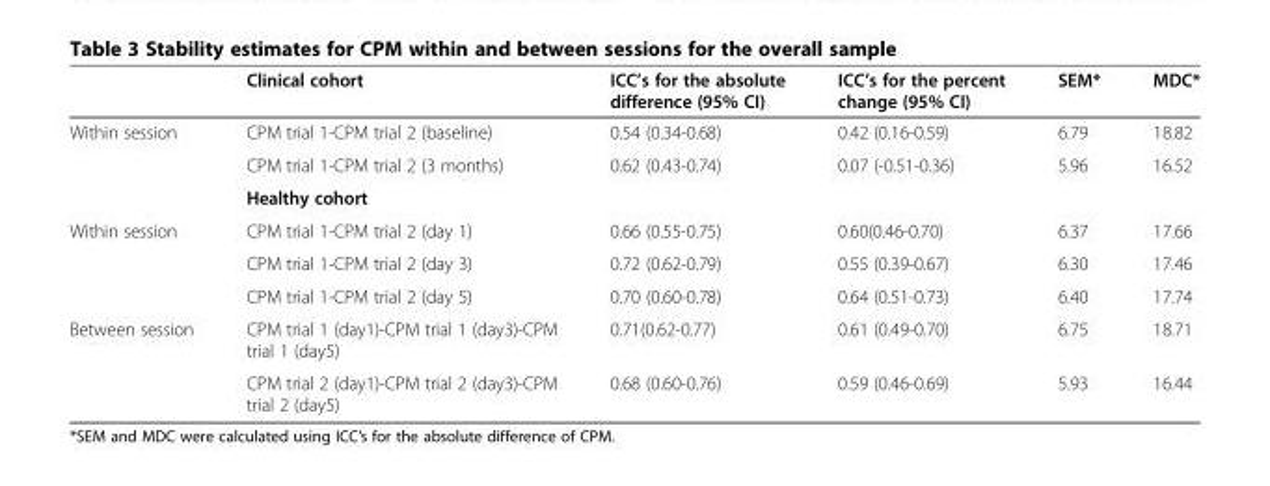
<table><thead><tr><td></td><td>Clinical cohort</td><td>ICC’s for the absolute difference (95% CI)</td><td>ICC’s for the percent change (95% CI)</td><td>SEM*</td><td>MDC*</td></tr></thead><tbody><tr><td rowspan="3">Within session</td><td>CPM trial 1-CPM trial 2 (baseline)</td><td>0.54 (0.34-0.68)</td><td>0.42 (0.16-0.59)</td><td>6.79</td><td>18.82</td></tr><tr><td>CPM trial 1-CPM trial 2 (3 months)</td><td>0.62 (0.43-0.74)</td><td>0.07 (-0.51-0.36)</td><td>5.96</td><td>16.52</td></tr><tr><td colspan="5">Healthy cohort</td></tr><tr><td rowspan="3">Within session</td><td>CPM trial 1-CPM trial 2 (day 1)</td><td>0.66 (0.55-0.75)</td><td>0.60(0.46-0.70)</td><td>6.37</td><td>17.66</td></tr><tr><td>CPM trial 1-CPM trial 2 (day 3)</td><td>0.72 (0.62-0.79)</td><td>0.55 (0.39-0.67)</td><td>6.30</td><td>17.46</td></tr><tr><td>CPM trial 1-CPM trial 2 (day 5)</td><td>0.70 (0.60-0.78)</td><td>0.64 (0.51-0.73)</td><td>6.40</td><td>17.74</td></tr><tr><td rowspan="2">Between session</td><td>CPM trial 1 (day1)-CPM trial 1 (day3)-CPM trial 1 (day5)</td><td>0.71(0.62-0.77)</td><td>0.61 (0.49-0.70)</td><td>6.75</td><td>18.71</td></tr><tr><td>CPM trial 2 (day1)-CPM trial 2 (day3)-CPM trial 2 (day5)</td><td>0.68 (0.60-0.76)</td><td>0.59 (0.46-0.69)</td><td>5.93</td><td>16.44</td></tr></tbody></table>